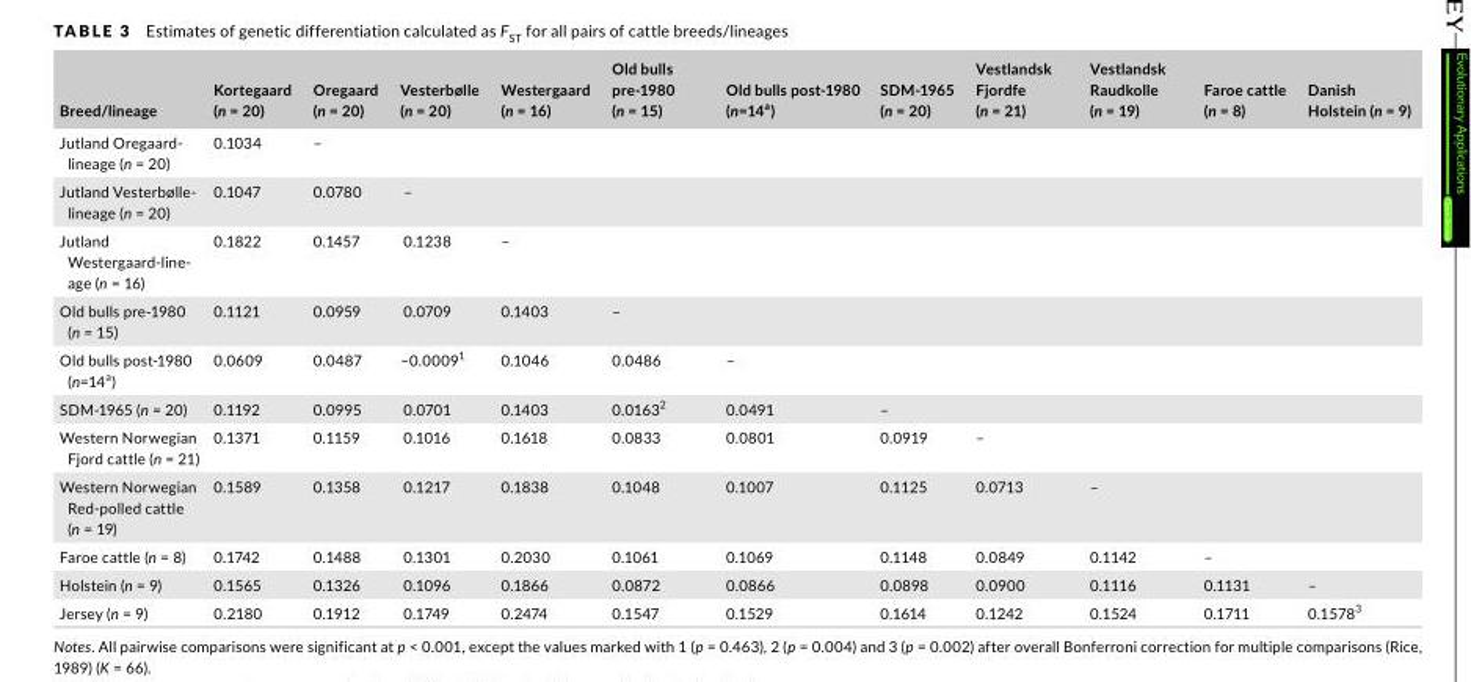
<table><thead><tr><td>Breed/lineage</td><td>Kortegaard (n = 20)</td><td>Oregaard (n = 20)</td><td>Vesterbølle (n = 20)</td><td>Westergaard (n = 16)</td><td>Old bulls pre‐1980 (n = 15)</td><td>Old bulls post‐1980 (n=14<sup>a</sup> )</td><td>SDM‐1965 (n = 20)</td><td>Vestlandsk Fjordfe (n = 21)</td><td>Vestlandsk Raudkolle (n = 19)</td><td>Faroe cattle (n = 8)</td><td>Danish Holstein (n = 9)</td></tr></thead><tbody><tr><td>Jutland Oregaard- lineage (n = 20)</td><td>0.1034</td><td>–</td><td></td><td></td><td></td><td></td><td></td><td></td><td></td><td></td><td></td></tr><tr><td>Jutland Vesterbølle- lineage (n = 20)</td><td>0.1047</td><td>0.0780</td><td>–</td><td></td><td></td><td></td><td></td><td></td><td></td><td></td><td></td></tr><tr><td>Jutland Westergaard-line- age (n = 16)</td><td>0.1822</td><td>0.1457</td><td>0.1238</td><td>–</td><td></td><td></td><td></td><td></td><td></td><td></td><td></td></tr><tr><td>Old bulls pre-1980 (n = 15)</td><td>0.1121</td><td>0.0959</td><td>0.0709</td><td>0.1403</td><td>–</td><td></td><td></td><td></td><td></td><td></td><td></td></tr><tr><td>Old bulls post-1980 (n=14<sup>a</sup> )</td><td>0.0609</td><td>0.0487</td><td>−0.0009<sup>1</sup></td><td>0.1046</td><td>0.0486</td><td>–</td><td></td><td></td><td></td><td></td><td></td></tr><tr><td>SDM-1965 (n = 20)</td><td>0.1192</td><td>0.0995</td><td>0.0701</td><td>0.1403</td><td>0.0163<sup>2</sup></td><td>0.0491</td><td>–</td><td></td><td></td><td></td><td></td></tr><tr><td>Western Norwegian Fjord cattle (n = 21)</td><td>0.1371</td><td>0.1159</td><td>0.1016</td><td>0.1618</td><td>0.0833</td><td>0.0801</td><td>0.0919</td><td>–</td><td></td><td></td><td></td></tr><tr><td>Western Norwegian Red-polled cattle (n = 19)</td><td>0.1589</td><td>0.1358</td><td>0.1217</td><td>0.1838</td><td>0.1048</td><td>0.1007</td><td>0.1125</td><td>0.0713</td><td>–</td><td></td><td></td></tr><tr><td>Faroe cattle (n = 8)</td><td>0.1742</td><td>0.1488</td><td>0.1301</td><td>0.2030</td><td>0.1061</td><td>0.1069</td><td>0.1148</td><td>0.0849</td><td>0.1142</td><td>–</td><td></td></tr><tr><td>Holstein (n = 9)</td><td>0.1565</td><td>0.1326</td><td>0.1096</td><td>0.1866</td><td>0.0872</td><td>0.0866</td><td>0.0898</td><td>0.0900</td><td>0.1116</td><td>0.1131</td><td>–</td></tr><tr><td>Jersey (n = 9)</td><td>0.2180</td><td>0.1912</td><td>0.1749</td><td>0.2474</td><td>0.1547</td><td>0.1529</td><td>0.1614</td><td>0.1242</td><td>0.1524</td><td>0.1711</td><td>0.1578<sup>3</sup></td></tr></tbody></table>